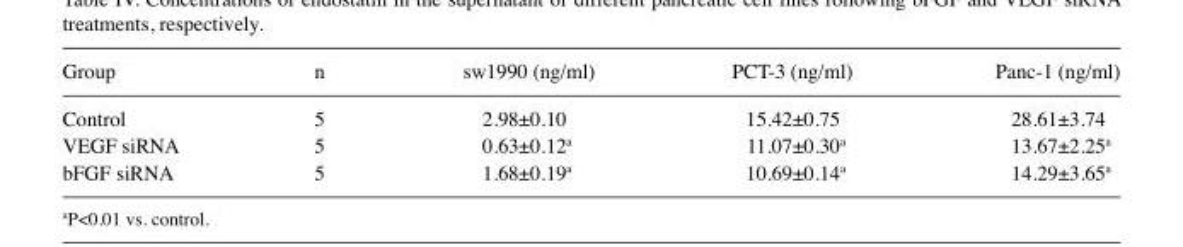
<table><thead><tr><td>Group</td><td>n</td><td>sw1990 (ng/ml)</td><td>PCT-3 (ng/ml)</td><td>Panc-1 (ng/ml)</td></tr></thead><tbody><tr><td>Control</td><td>5</td><td>2.98±0.10</td><td>15.42±0.75</td><td>28.61±3.74</td></tr><tr><td>VEGF siRNA</td><td>5</td><td>0.63±0.12<sup>a</sup></td><td>11.07±0.30<sup>a</sup></td><td>13.67±2.25<sup>a</sup></td></tr><tr><td>bFGF siRNA</td><td>5</td><td>1.68±0.19<sup>a</sup></td><td>10.69±0.14<sup>a</sup></td><td>14.29±3.65<sup>a</sup></td></tr></tbody></table>